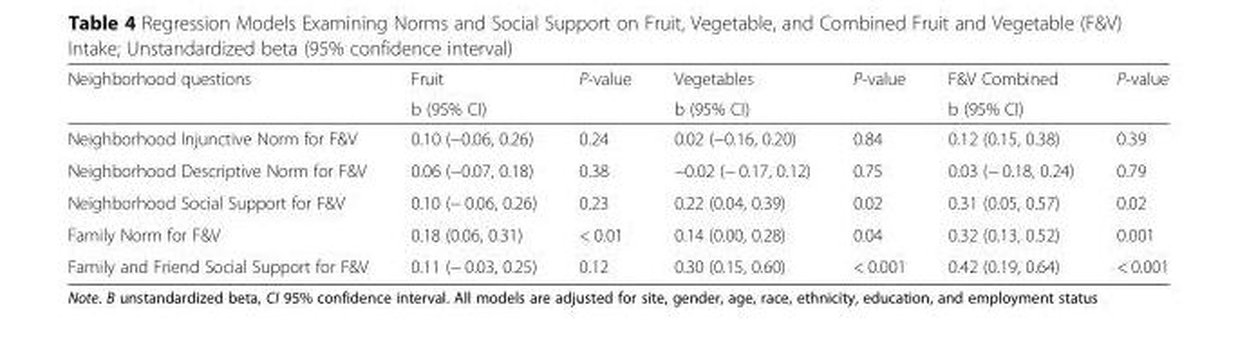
<table><thead><tr><td rowspan="2">Neighborhood questions</td><td rowspan="2">Fruit b (95% CI)</td><td rowspan="2">P-value</td><td rowspan="2">Vegetables b (95% CI)</td><td rowspan="2">P-value</td><td rowspan="2">F&amp;V Combined b (95% CI)</td><td rowspan="2">P-value</td></tr><tr></tr></thead><tbody><tr><td>Neighborhood Injunctive Norm for F&amp;V</td><td>0.10 (−0.06, 0.26)</td><td>0.24</td><td>0.02 (−0.16, 0.20)</td><td>0.84</td><td>0.12 (0.15, 0.38)</td><td>0.39</td></tr><tr><td>Neighborhood Descriptive Norm for F&amp;V</td><td>0.06 (−0.07, 0.18)</td><td>0.38</td><td>−0.02 (− 0.17, 0.12)</td><td>0.75</td><td>0.03 (− 0.18, 0.24)</td><td>0.79</td></tr><tr><td>Neighborhood Social Support for F&amp;V</td><td>0.10 (− 0.06, 0.26)</td><td>0.23</td><td>0.22 (0.04, 0.39)</td><td>0.02</td><td>0.31 (0.05, 0.57)</td><td>0.02</td></tr><tr><td>Family Norm for F&amp;V</td><td>0.18 (0.06, 0.31)</td><td>&lt; 0.01</td><td>0.14 (0.00, 0.28)</td><td>0.04</td><td>0.32 (0.13, 0.52)</td><td>0.001</td></tr><tr><td>Family and Friend Social Support for F&amp;V</td><td>0.11 (− 0.03, 0.25)</td><td>0.12</td><td>0.30 (0.15, 0.60)</td><td>&lt; 0.001</td><td>0.42 (0.19, 0.64)</td><td>&lt; 0.001</td></tr></tbody></table>